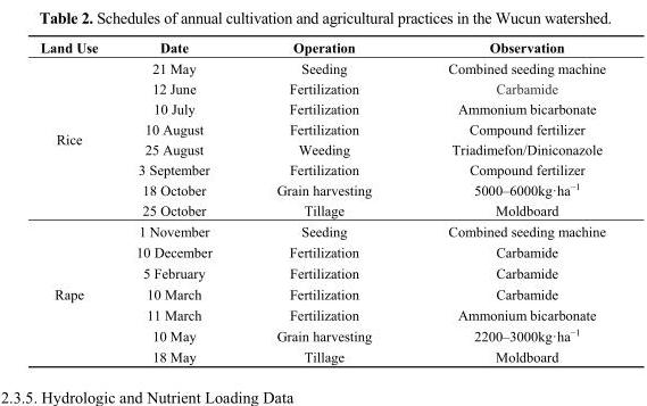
<table><thead><tr><td>Land Use</td><td>Date</td><td>Operation</td><td>Observation</td></tr></thead><tbody><tr><td rowspan="8">Rice</td><td>21 May</td><td>Seeding</td><td>Combined seeding machine</td></tr><tr><td>12 June</td><td>Fertilization</td><td>Carbamide</td></tr><tr><td>10 July</td><td>Fertilization</td><td>Ammonium bicarbonate</td></tr><tr><td>10 August</td><td>Fertilization</td><td>Compound fertilizer</td></tr><tr><td>25 August</td><td>Weeding</td><td>Triadimefon/Diniconazole</td></tr><tr><td>3 September</td><td>Fertilization</td><td>Compound fertilizer</td></tr><tr><td>18 October</td><td>Grain harvesting</td><td>5000–6000kg·ha<sup>−1</sup></td></tr><tr><td>25 October</td><td>Tillage</td><td>Moldboard</td></tr><tr><td rowspan="7">Rape</td><td>1 November</td><td>Seeding</td><td>Combined seeding machine</td></tr><tr><td>10 December</td><td>Fertilization</td><td>Carbamide</td></tr><tr><td>5 February</td><td>Fertilization</td><td>Carbamide</td></tr><tr><td>10 March</td><td>Fertilization</td><td>Carbamide</td></tr><tr><td>11 March</td><td>Fertilization</td><td>Ammonium bicarbonate</td></tr><tr><td>10 May</td><td>Grain harvesting</td><td>2200–3000kg·ha<sup>−1</sup></td></tr><tr><td>18 May</td><td>Tillage</td><td>Moldboard</td></tr></tbody></table>